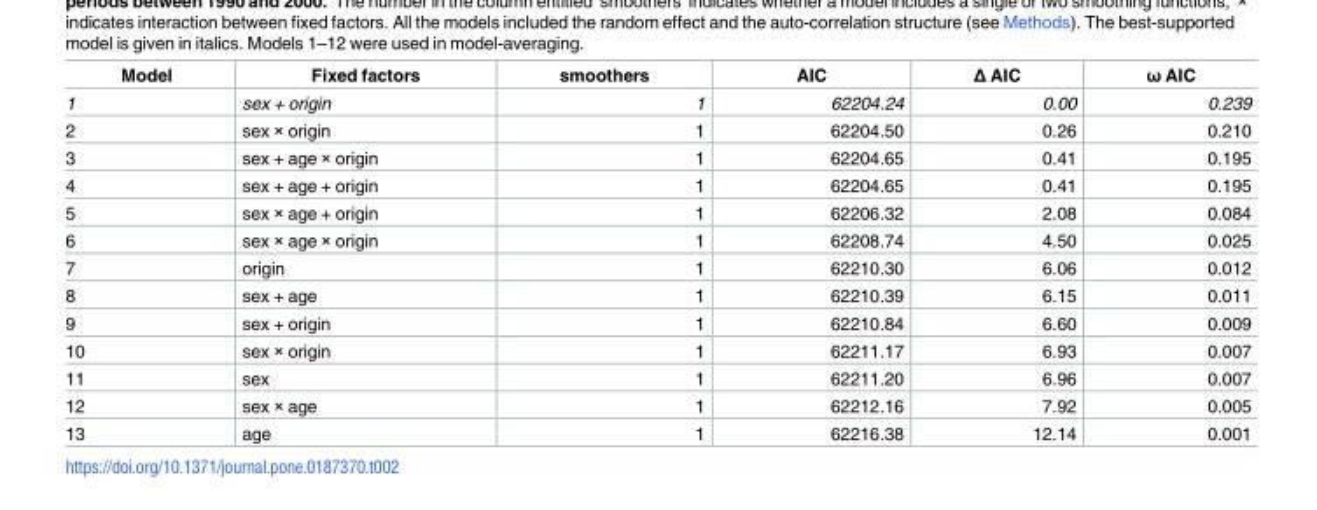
<table><thead><tr><td>Model</td><td>Fixed factors</td><td>smoothers</td><td>AIC</td><td>Δ AIC</td><td>ω AIC</td></tr></thead><tbody><tr><td>1</td><td>sex + origin</td><td>1</td><td>62204.24</td><td>0.00</td><td>0.239</td></tr><tr><td>2</td><td>sex × origin</td><td>1</td><td>62204.50</td><td>0.26</td><td>0.210</td></tr><tr><td>3</td><td>sex + age × origin</td><td>1</td><td>62204.65</td><td>0.41</td><td>0.195</td></tr><tr><td>4</td><td>sex + age + origin</td><td>1</td><td>62204.65</td><td>0.41</td><td>0.195</td></tr><tr><td>5</td><td>sex × age + origin</td><td>1</td><td>62206.32</td><td>2.08</td><td>0.084</td></tr><tr><td>6</td><td>sex × age × origin</td><td>1</td><td>62208.74</td><td>4.50</td><td>0.025</td></tr><tr><td>7</td><td>origin</td><td>1</td><td>62210.30</td><td>6.06</td><td>0.012</td></tr><tr><td>8</td><td>sex + age</td><td>1</td><td>62210.39</td><td>6.15</td><td>0.011</td></tr><tr><td>9</td><td>sex + origin</td><td>1</td><td>62210.84</td><td>6.60</td><td>0.009</td></tr><tr><td>10</td><td>sex × origin</td><td>1</td><td>62211.17</td><td>6.93</td><td>0.007</td></tr><tr><td>11</td><td>sex</td><td>1</td><td>62211.20</td><td>6.96</td><td>0.007</td></tr><tr><td>12</td><td>sex × age</td><td>1</td><td>62212.16</td><td>7.92</td><td>0.005</td></tr><tr><td>13</td><td>age</td><td>1</td><td>62216.38</td><td>12.14</td><td>0.001</td></tr></tbody></table>